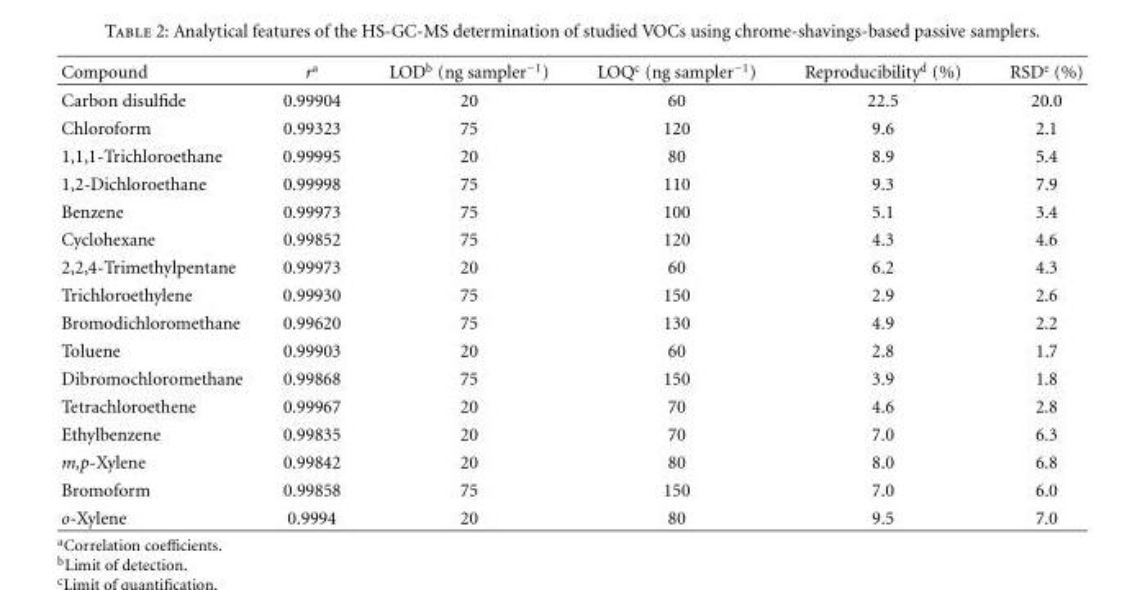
<table><thead><tr><td>Compound</td><td>r<sup>a</sup></td><td>LOD<sup>b</sup> (ng sampler<sup>−1</sup>)</td><td>LOQ<sup>c</sup> (ng sampler<sup>−1</sup>)</td><td>Reproducibility<sup>d</sup> (%)</td><td>RSD<sup>e</sup> (%)</td></tr></thead><tbody><tr><td>Carbon disulfide</td><td>0.99904</td><td>20</td><td>60</td><td>22.5</td><td>20.0</td></tr><tr><td>Chloroform</td><td>0.99323</td><td>75</td><td>120</td><td>9.6</td><td>2.1</td></tr><tr><td>1,1,1-Trichloroethane</td><td>0.99995</td><td>20</td><td>80</td><td>8.9</td><td>5.4</td></tr><tr><td>1,2-Dichloroethane</td><td>0.99998</td><td>75</td><td>110</td><td>9.3</td><td>7.9</td></tr><tr><td>Benzene</td><td>0.99973</td><td>75</td><td>100</td><td>5.1</td><td>3.4</td></tr><tr><td>Cyclohexane</td><td>0.99852</td><td>75</td><td>120</td><td>4.3</td><td>4.6</td></tr><tr><td>2,2,4-Trimethylpentane</td><td>0.99973</td><td>20</td><td>60</td><td>6.2</td><td>4.3</td></tr><tr><td>Trichloroethylene</td><td>0.99930</td><td>75</td><td>150</td><td>2.9</td><td>2.6</td></tr><tr><td>Bromodichloromethane</td><td>0.99620</td><td>75</td><td>130</td><td>4.9</td><td>2.2</td></tr><tr><td>Toluene</td><td>0.99903</td><td>20</td><td>60</td><td>2.8</td><td>1.7</td></tr><tr><td>Dibromochloromethane</td><td>0.99868</td><td>75</td><td>150</td><td>3.9</td><td>1.8</td></tr><tr><td>Tetrachloroethene</td><td>0.99967</td><td>20</td><td>70</td><td>4.6</td><td>2.8</td></tr><tr><td>Ethylbenzene</td><td>0.99835</td><td>20</td><td>70</td><td>7.0</td><td>6.3</td></tr><tr><td>m,p-Xylene</td><td>0.99842</td><td>20</td><td>80</td><td>8.0</td><td>6.8</td></tr><tr><td>Bromoform</td><td>0.99858</td><td>75</td><td>150</td><td>7.0</td><td>6.0</td></tr><tr><td>o-Xylene</td><td>0.9994</td><td>20</td><td>80</td><td>9.5</td><td>7.0</td></tr></tbody></table>